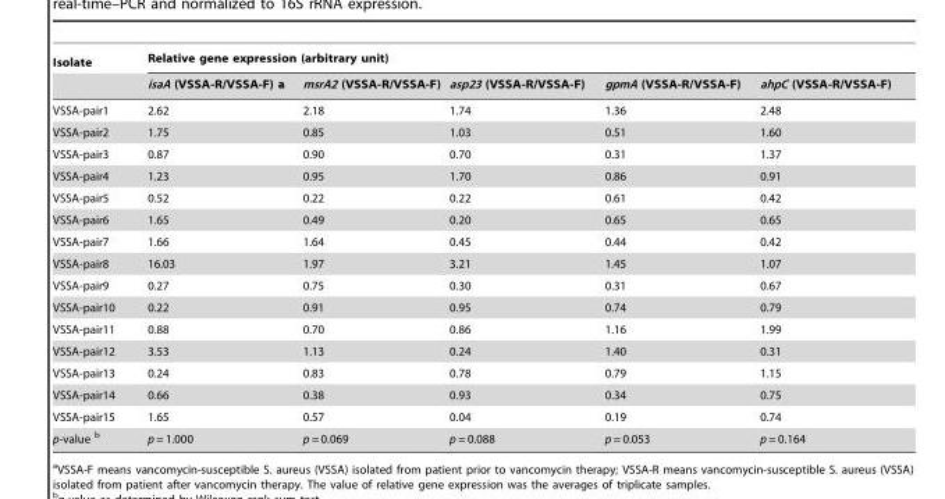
<table><thead><tr><td rowspan="2">Isolate</td><td colspan="5">Relative gene expression (arbitrary unit)</td></tr><tr><td>isaA (VSSA-R/VSSA-F) a</td><td>msrA2 (VSSA-R/VSSA-F)</td><td>asp23 (VSSA-R/VSSA-F)</td><td>gpmA (VSSA-R/VSSA-F)</td><td>ahpC (VSSA-R/VSSA-F)</td></tr></thead><tbody><tr><td>VSSA-pair1</td><td>2.62</td><td>2.18</td><td>1.74</td><td>1.36</td><td>2.48</td></tr><tr><td>VSSA-pair2</td><td>1.75</td><td>0.85</td><td>1.03</td><td>0.51</td><td>1.60</td></tr><tr><td>VSSA-pair3</td><td>0.87</td><td>0.90</td><td>0.70</td><td>0.31</td><td>1.37</td></tr><tr><td>VSSA-pair4</td><td>1.23</td><td>0.95</td><td>1.70</td><td>0.86</td><td>0.91</td></tr><tr><td>VSSA-pair5</td><td>0.52</td><td>0.22</td><td>0.22</td><td>0.61</td><td>0.42</td></tr><tr><td>VSSA-pair6</td><td>1.65</td><td>0.49</td><td>0.20</td><td>0.65</td><td>0.65</td></tr><tr><td>VSSA-pair7</td><td>1.66</td><td>1.64</td><td>0.45</td><td>0.44</td><td>0.42</td></tr><tr><td>VSSA-pair8</td><td>16.03</td><td>1.97</td><td>3.21</td><td>1.45</td><td>1.07</td></tr><tr><td>VSSA-pair9</td><td>0.27</td><td>0.75</td><td>0.30</td><td>0.31</td><td>0.67</td></tr><tr><td>VSSA-pair10</td><td>0.22</td><td>0.91</td><td>0.95</td><td>0.74</td><td>0.79</td></tr><tr><td>VSSA-pair11</td><td>0.88</td><td>0.70</td><td>0.86</td><td>1.16</td><td>1.99</td></tr><tr><td>VSSA-pair12</td><td>3.53</td><td>1.13</td><td>0.24</td><td>1.40</td><td>0.31</td></tr><tr><td>VSSA-pair13</td><td>0.24</td><td>0.83</td><td>0.78</td><td>0.79</td><td>1.15</td></tr><tr><td>VSSA-pair14</td><td>0.66</td><td>0.38</td><td>0.93</td><td>0.34</td><td>0.75</td></tr><tr><td>VSSA-pair15</td><td>1.65</td><td>0.57</td><td>0.04</td><td>0.19</td><td>0.74</td></tr><tr><td>p-value b</td><td>p = 1.000</td><td>p = 0.069</td><td>p = 0.088</td><td>p = 0.053</td><td>p = 0.164</td></tr></tbody></table>